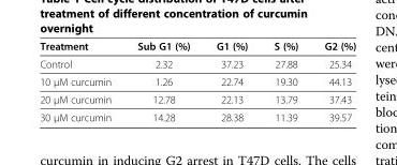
<table><thead><tr><td>Treatment</td><td>Sub G1 (%)</td><td>G1 (%)</td><td>S (%)</td><td>G2 (%)</td></tr></thead><tbody><tr><td>Control</td><td>2.32</td><td>37.23</td><td>27.88</td><td>25.34</td></tr><tr><td>10 μM curcumin</td><td>1.26</td><td>22.74</td><td>19.30</td><td>44.13</td></tr><tr><td>20 μM curcumin</td><td>12.78</td><td>22.13</td><td>13.79</td><td>37.43</td></tr><tr><td>30 μM curcumin</td><td>14.28</td><td>28.38</td><td>11.39</td><td>39.57</td></tr></tbody></table>